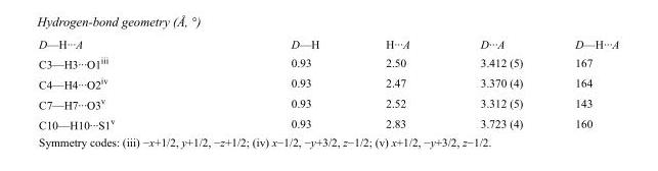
<table><tbody><tr><td>D—H···A</td><td>D—H</td><td>H···A</td><td>D···A</td><td>D—H···A</td></tr><tr><td>C3—H3···O1<sup>iii</sup></td><td>0.93</td><td>2.50</td><td>3.412 (5)</td><td>167</td></tr><tr><td>C4—H4···O2<sup>iv</sup></td><td>0.93</td><td>2.47</td><td>3.370 (4)</td><td>164</td></tr><tr><td>C7—H7···O3<sup>v</sup></td><td>0.93</td><td>2.52</td><td>3.312 (5)</td><td>143</td></tr><tr><td>C10—H10···S1<sup>v</sup></td><td>0.93</td><td>2.83</td><td>3.723 (4)</td><td>160</td></tr></tbody></table>